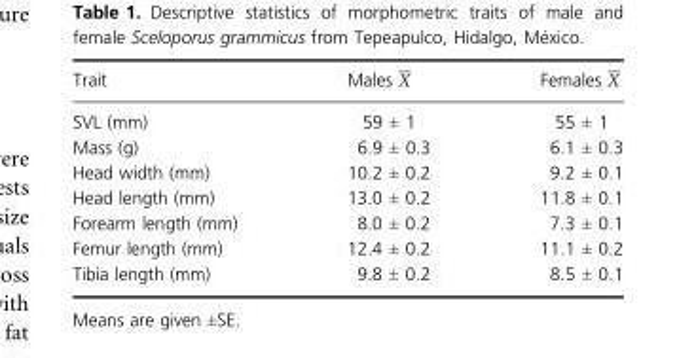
<table><thead><tr><td>Trait</td><td>Males X</td><td>Females X</td></tr></thead><tbody><tr><td>SVL (mm)</td><td>59 ± 1</td><td>55 ± 1</td></tr><tr><td>Mass (g)</td><td>6.9 ± 0.3</td><td>6.1 ± 0.3</td></tr><tr><td>Head width (mm)</td><td>10.2 ± 0.2</td><td>9.2 ± 0.1</td></tr><tr><td>Head length (mm)</td><td>13.0 ± 0.2</td><td>11.8 ± 0.1</td></tr><tr><td>Forearm length (mm)</td><td>8.0 ± 0.2</td><td>7.3 ± 0.1</td></tr><tr><td>Femur length (mm)</td><td>12.4 ± 0.2</td><td>11.1 ± 0.2</td></tr><tr><td>Tibia length (mm)</td><td>9.8 ± 0.2</td><td>8.5 ± 0.1</td></tr></tbody></table>